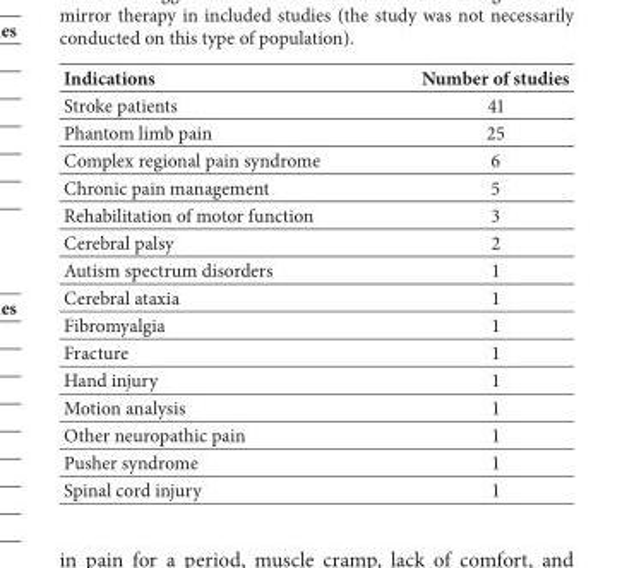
<table><thead><tr><td>Indications</td><td>Number of studies</td></tr></thead><tbody><tr><td>Stroke patients</td><td>41</td></tr><tr><td>Phantom limb pain</td><td>25</td></tr><tr><td>Complex regional pain syndrome</td><td>6</td></tr><tr><td>Chronic pain management</td><td>5</td></tr><tr><td>Rehabilitation of motor function</td><td>3</td></tr><tr><td>Cerebral palsy</td><td>2</td></tr><tr><td>Autism spectrum disorders</td><td>1</td></tr><tr><td>Cerebral ataxia</td><td>1</td></tr><tr><td>Fibromyalgia</td><td>1</td></tr><tr><td>Fracture</td><td>1</td></tr><tr><td>Hand injury</td><td>1</td></tr><tr><td>Motion analysis</td><td>1</td></tr><tr><td>Other neuropathic pain</td><td>1</td></tr><tr><td>Pusher syndrome</td><td>1</td></tr><tr><td>Spinal cord injury</td><td>1</td></tr></tbody></table>